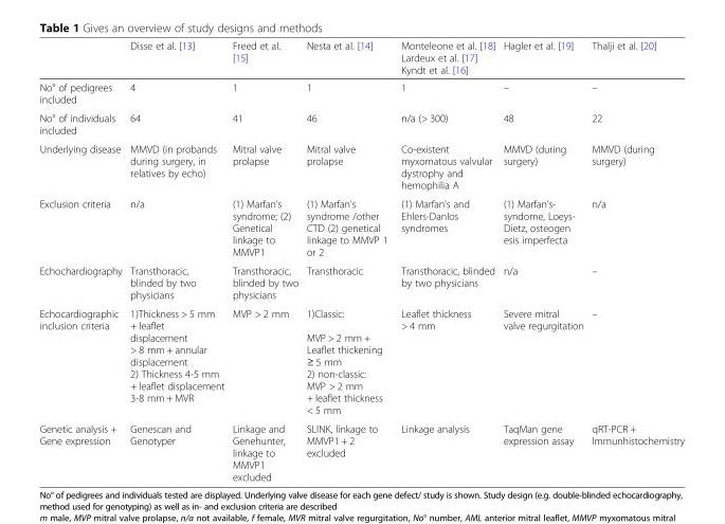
<table><thead><tr><td></td><td>Disse et al. [13]</td><td>Freed et al. [15]</td><td>Nesta et al. [14]</td><td>Monteleone et al. [18] Lardeux et al. [17] Kyndt et al. [16]</td><td>Hagler et al. [19]</td><td>Thalji et al. [20]</td></tr></thead><tbody><tr><td>No° of pedigrees included</td><td>4</td><td>1</td><td>1</td><td>1</td><td>–</td><td>–</td></tr><tr><td>No° of individuals included</td><td>64</td><td>41</td><td>46</td><td>n/a (&gt; 300)</td><td>48</td><td>22</td></tr><tr><td>Underlying disease</td><td>MMVD (in probands during surgery, in relatives by echo)</td><td>Mitral valve prolapse</td><td>Mitral valve prolapse</td><td>Co-existent myxomatous valvular dystrophy and hemophilia A</td><td>MMVD (during surgery)</td><td>MMVD (during surgery)</td></tr><tr><td>Exclusion criteria</td><td>n/a</td><td>(1) Marfan’s syndrome; (2) Genetical linkage to MMVP1</td><td>(1) Marfan’s syndrome /other CTD (2) genetical linkage to MMVP 1 or 2</td><td>(1) Marfan‘s and Ehlers-Danlos syndromes</td><td>(1) Marfan’s- syndome, Loeys- Dietz, osteogen esis imperfecta</td><td>n/a</td></tr><tr><td>Echochardiography</td><td>Transthoracic, blinded by two physicians</td><td>Transthoracic, blinded by two physicians</td><td>Transthoracic</td><td>Transthoracic, blinded by two physicians</td><td>n/a</td><td>–</td></tr><tr><td>Echocardiographic inclusion criteria</td><td>1)Thickness &gt; 5 mm + leaflet displacement &gt; 8 mm + annular displacement 2) Thickness 4-5 mm + leaflet displacement 3-8 mm + MVR</td><td>MVP &gt; 2 mm</td><td>1)Classic: MVP &gt; 2 mm + Leaflet thickening ≥ 5 mm 2) non-classic: MVP &gt; 2 mm + leaflet thickness &lt; 5 mm</td><td>Leaflet thickness &gt; 4 mm</td><td>Severe mitral valve regurgitation</td><td>–</td></tr><tr><td>Genetic analysis + Gene expression</td><td>Genescan and Genotyper</td><td>Linkage and Genehunter, linkage to MMVP1 excluded</td><td>SLINK, linkage to MMVP1 + 2 excluded</td><td>Linkage analysis</td><td>TaqMan gene expression assay</td><td>qRT-PCR + Immunhistochemistry</td></tr></tbody></table>